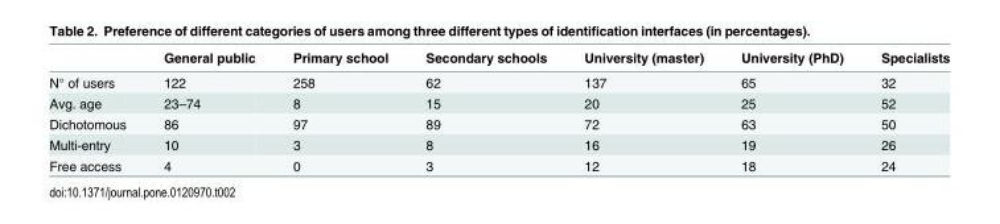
<table><thead><tr><td></td><td>General public</td><td>Primary school</td><td>Secondary schools</td><td>University (master)</td><td>University (PhD)</td><td>Specialists</td></tr></thead><tbody><tr><td>N° of users</td><td>122</td><td>258</td><td>62</td><td>137</td><td>65</td><td>32</td></tr><tr><td>Avg. age</td><td>23–74</td><td>8</td><td>15</td><td>20</td><td>25</td><td>52</td></tr><tr><td>Dichotomous</td><td>86</td><td>97</td><td>89</td><td>72</td><td>63</td><td>50</td></tr><tr><td>Multi-entry</td><td>10</td><td>3</td><td>8</td><td>16</td><td>19</td><td>26</td></tr><tr><td>Free access</td><td>4</td><td>0</td><td>3</td><td>12</td><td>18</td><td>24</td></tr></tbody></table>